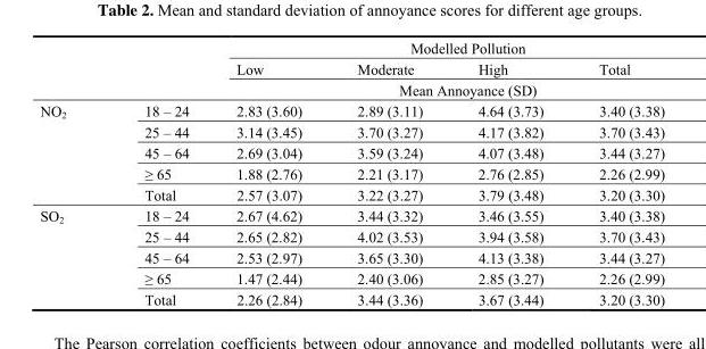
<table><thead><tr><td rowspan="3"></td><td rowspan="3"></td><td colspan="4">Modelled Pollution</td></tr><tr><td>Low</td><td>Moderate</td><td>High</td><td>Total</td></tr><tr><td colspan="4">Mean Annoyance (SD)</td></tr></thead><tbody><tr><td rowspan="5">NO<sub>2</sub></td><td>18 – 24</td><td>2.83 (3.60)</td><td>2.89 (3.11)</td><td>4.64 (3.73)</td><td>3.40 (3.38)</td></tr><tr><td>25 – 44</td><td>3.14 (3.45)</td><td>3.70 (3.27)</td><td>4.17 (3.82)</td><td>3.70 (3.43)</td></tr><tr><td>45 – 64</td><td>2.69 (3.04)</td><td>3.59 (3.24)</td><td>4.07 (3.48)</td><td>3.44 (3.27)</td></tr><tr><td>≥ 65</td><td>1.88 (2.76)</td><td>2.21 (3.17)</td><td>2.76 (2.85)</td><td>2.26 (2.99)</td></tr><tr><td>Total</td><td>2.57 (3.07)</td><td>3.22 (3.27)</td><td>3.79 (3.48)</td><td>3.20 (3.30)</td></tr><tr><td rowspan="5">SO<sub>2</sub></td><td>18 – 24</td><td>2.67 (4.62)</td><td>3.44 (3.32)</td><td>3.46 (3.55)</td><td>3.40 (3.38)</td></tr><tr><td>25 – 44</td><td>2.65 (2.82)</td><td>4.02 (3.53)</td><td>3.94 (3.58)</td><td>3.70 (3.43)</td></tr><tr><td>45 – 64</td><td>2.53 (2.97)</td><td>3.65 (3.30)</td><td>4.13 (3.38)</td><td>3.44 (3.27)</td></tr><tr><td>≥ 65</td><td>1.47 (2.44)</td><td>2.40 (3.06)</td><td>2.85 (3.27)</td><td>2.26 (2.99)</td></tr><tr><td>Total</td><td>2.26 (2.84)</td><td>3.44 (3.36)</td><td>3.67 (3.44)</td><td>3.20 (3.30)</td></tr></tbody></table>